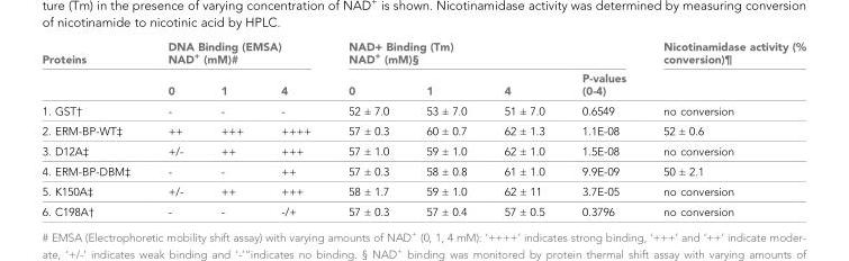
<table><thead><tr><td rowspan="2">Proteins</td><td colspan="3">DNA Binding (EMSA) NAD<sup>+</sup> (mM)#</td><td colspan="4">NAD+ Binding (Tm) NAD<sup>+</sup> (mM)§</td><td rowspan="2">Nicotinamidase activity (% conversion)¶</td></tr><tr><td>0</td><td>1</td><td>4</td><td>0</td><td>1</td><td>4</td><td>P-values (0-4)</td></tr></thead><tbody><tr><td>1. GST†</td><td>-</td><td>-</td><td>-</td><td>52 ± 7.0</td><td>53 ± 7.0</td><td>51 ± 7.0</td><td>0.6549</td><td>no conversion</td></tr><tr><td>2. ERM-BP-WT‡</td><td>++</td><td>+++</td><td>++++</td><td>57 ± 0.3</td><td>60 ± 0.7</td><td>62 ± 1.3</td><td>1.1E-08</td><td>52 ± 0.6</td></tr><tr><td>3. D12A‡</td><td>+/-</td><td>++</td><td>+++</td><td>57 ± 1.0</td><td>59 ± 1.0</td><td>62 ± 1.0</td><td>1.5E-08</td><td>no conversion</td></tr><tr><td>4. ERM-BP-DBM‡</td><td>-</td><td>-</td><td>++</td><td>57 ± 0.3</td><td>58 ± 0.8</td><td>61 ± 1.0</td><td>9.9E-09</td><td>50 ± 2.1</td></tr><tr><td>5. K150A‡</td><td>+/-</td><td>++</td><td>+++</td><td>58 ± 1.7</td><td>59 ± 1.0</td><td>62 ± 11</td><td>3.7E-05</td><td>no conversion</td></tr><tr><td>6. C198A†</td><td>-</td><td>-</td><td>-/+</td><td>57 ± 0.3</td><td>57 ± 0.4</td><td>57 ± 0.5</td><td>0.3796</td><td>no conversion</td></tr></tbody></table>